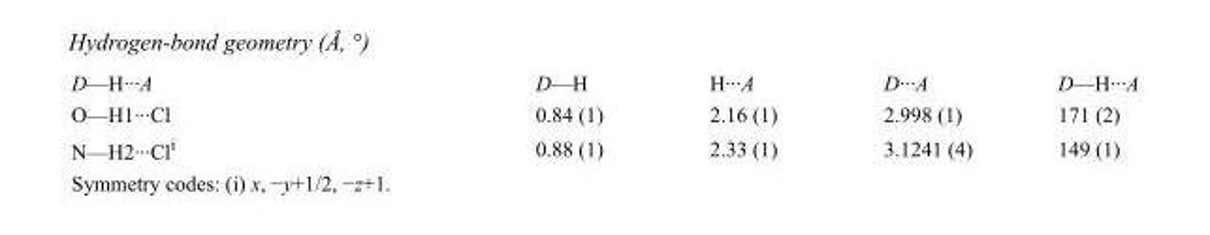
<table><tbody><tr><td>D—H···A</td><td>D—H</td><td>H···A</td><td>D···A</td><td>D—H···A</td></tr><tr><td>O—H1···Cl</td><td>0.84 (1)</td><td>2.16 (1)</td><td>2.998 (1)</td><td>171 (2)</td></tr><tr><td>N—H2···Cl<sup>i</sup></td><td>0.88 (1)</td><td>2.33 (1)</td><td>3.1241 (4)</td><td>149 (1)</td></tr></tbody></table>